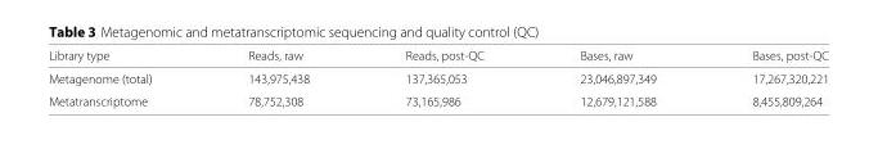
<table><thead><tr><td>Library type</td><td>Reads, raw</td><td>Reads, post-QC</td><td>Bases, raw</td><td>Bases, post-QC</td></tr></thead><tbody><tr><td>Metagenome (total)</td><td>143,975,438</td><td>137,365,053</td><td>23,046,897,349</td><td>17,267,320,221</td></tr><tr><td>Metatranscriptome</td><td>78,752,308</td><td>73,165,986</td><td>12,679,121,588</td><td>8,455,809,264</td></tr></tbody></table>